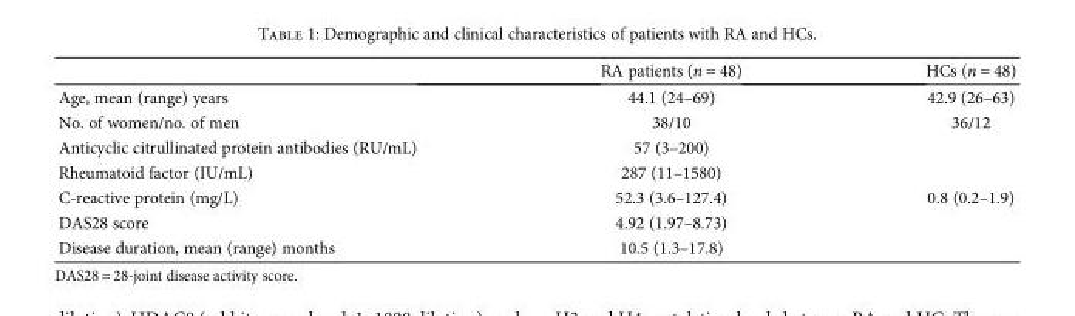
<table><thead><tr><td></td><td>RA patients (n = 48)</td><td>HCs (n = 48)</td></tr></thead><tbody><tr><td>Age, mean (range) years</td><td>44.1 (24–69)</td><td>42.9 (26–63)</td></tr><tr><td>No. of women/no. of men</td><td>38/10</td><td>36/12</td></tr><tr><td>Anticyclic citrullinated protein antibodies (RU/mL)</td><td>57 (3–200)</td><td></td></tr><tr><td>Rheumatoid factor (IU/mL)</td><td>287 (11–1580)</td><td></td></tr><tr><td>C-reactive protein (mg/L)</td><td>52.3 (3.6–127.4)</td><td>0.8 (0.2–1.9)</td></tr><tr><td>DAS28 score</td><td>4.92 (1.97–8.73)</td><td></td></tr><tr><td>Disease duration, mean (range) months</td><td>10.5 (1.3–17.8)</td><td></td></tr></tbody></table>